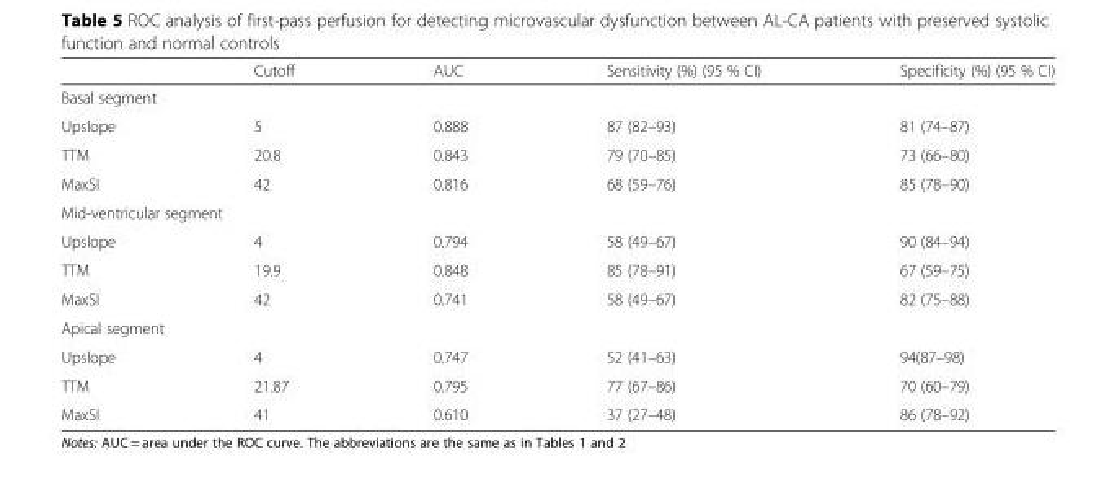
<table><thead><tr><td></td><td>Cutoff</td><td>AUC</td><td>Sensitivity (%) (95 % CI)</td><td>Specificity (%) (95 % CI)</td></tr></thead><tbody><tr><td colspan="5">Basal segment</td></tr><tr><td>Upslope</td><td>5</td><td>0.888</td><td>87 (82–93)</td><td>81 (74–87)</td></tr><tr><td>TTM</td><td>20.8</td><td>0.843</td><td>79 (70–85)</td><td>73 (66–80)</td></tr><tr><td>MaxSI</td><td>42</td><td>0.816</td><td>68 (59–76)</td><td>85 (78–90)</td></tr><tr><td colspan="5">Mid-ventricular segment</td></tr><tr><td>Upslope</td><td>4</td><td>0.794</td><td>58 (49–67)</td><td>90 (84–94)</td></tr><tr><td>TTM</td><td>19.9</td><td>0.848</td><td>85 (78–91)</td><td>67 (59–75)</td></tr><tr><td>MaxSI</td><td>42</td><td>0.741</td><td>58 (49–67)</td><td>82 (75–88)</td></tr><tr><td colspan="5">Apical segment</td></tr><tr><td>Upslope</td><td>4</td><td>0.747</td><td>52 (41–63)</td><td>94(87–98)</td></tr><tr><td>TTM</td><td>21.87</td><td>0.795</td><td>77 (67–86)</td><td>70 (60–79)</td></tr><tr><td>MaxSI</td><td>41</td><td>0.610</td><td>37 (27–48)</td><td>86 (78–92)</td></tr></tbody></table>